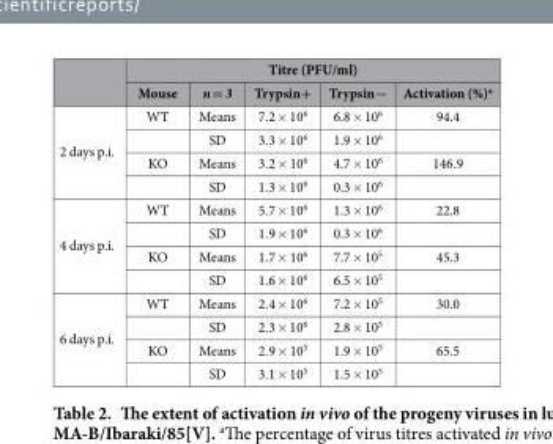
<table><thead><tr><td rowspan="2"></td><td colspan="5">Titre (PFU/ml)</td></tr><tr><td>Mouse</td><td>n = 3</td><td>Trypsin+</td><td>Trypsin−</td><td>Activation (%)<sup>a</sup></td></tr></thead><tbody><tr><td rowspan="4">2 days p.i.</td><td>WT</td><td>Means</td><td>7.2 × 10<sup>6</sup></td><td>6.8 × 10<sup>6</sup></td><td>94.4</td></tr><tr><td></td><td>SD</td><td>3.3 × 10<sup>6</sup></td><td>1.9 × 10<sup>6</sup></td><td></td></tr><tr><td>KO</td><td>Means</td><td>3.2 × 10<sup>6</sup></td><td>4.7 × 10<sup>6</sup></td><td>146.9</td></tr><tr><td></td><td>SD</td><td>1.3 × 10<sup>6</sup></td><td>0.3 × 10<sup>6</sup></td><td></td></tr><tr><td rowspan="4">4 days p.i.</td><td>WT</td><td>Means</td><td>5.7 × 10<sup>6</sup></td><td>1.3 × 10<sup>6</sup></td><td>22.8</td></tr><tr><td></td><td>SD</td><td>1.9 × 10<sup>6</sup></td><td>0.3 × 10<sup>6</sup></td><td></td></tr><tr><td>KO</td><td>Means</td><td>1.7 × 10<sup>6</sup></td><td>7.7 × 10<sup>5</sup></td><td>45.3</td></tr><tr><td></td><td>SD</td><td>1.6 × 10<sup>6</sup></td><td>6.5 × 10<sup>5</sup></td><td></td></tr><tr><td rowspan="4">6 days p.i.</td><td>WT</td><td>Means</td><td>2.4 × 10<sup>6</sup></td><td>7.2 × 10<sup>5</sup></td><td>30.0</td></tr><tr><td></td><td>SD</td><td>2.3 × 10<sup>6</sup></td><td>2.8 × 10<sup>5</sup></td><td></td></tr><tr><td>KO</td><td>Means</td><td>2.9 × 10<sup>5</sup></td><td>1.9 × 10<sup>5</sup></td><td>65.5</td></tr><tr><td></td><td>SD</td><td>3.1 × 10<sup>5</sup></td><td>1.5 × 10<sup>5</sup></td><td></td></tr></tbody></table>